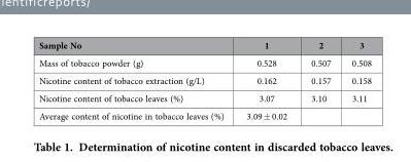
<table><thead><tr><td>Sample No</td><td>1</td><td>2</td><td>3</td></tr></thead><tbody><tr><td>Mass of tobacco powder (g)</td><td>0.528</td><td>0.507</td><td>0.508</td></tr><tr><td>Nicotine content of tobacco extraction (g/L)</td><td>0.162</td><td>0.157</td><td>0.158</td></tr><tr><td>Nicotine content of tobacco leaves (%)</td><td>3.07</td><td>3.10</td><td>3.11</td></tr><tr><td>Average content of nicotine in tobacco leaves (%)</td><td>3.09 ± 0.02</td><td></td><td></td></tr></tbody></table>